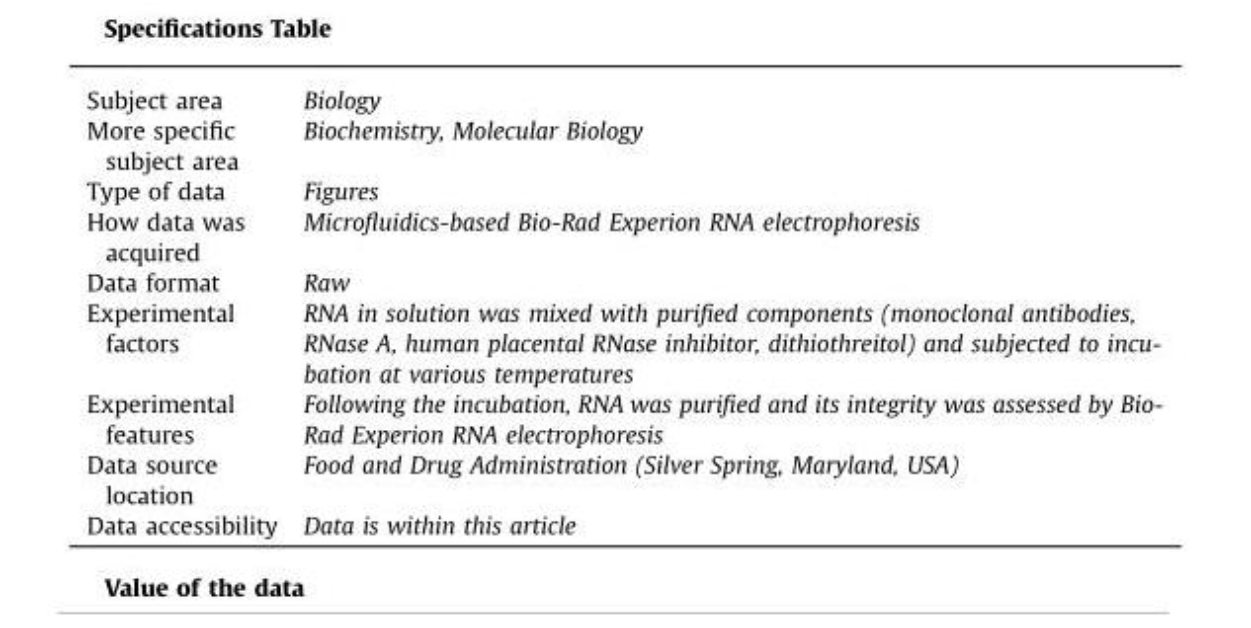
<table><tbody><tr><td>Subject area</td><td>Biology</td></tr><tr><td>More specific subject area</td><td>Biochemistry, Molecular Biology</td></tr><tr><td>Type of data</td><td>Figures</td></tr><tr><td>How data was acquired</td><td>Microfluidics-based Bio-Rad Experion RNA electrophoresis</td></tr><tr><td>Data format</td><td>Raw</td></tr><tr><td>Experimental factors</td><td>RNA in solution was mixed with purified components (monoclonal antibodies, RNase A, human placental RNase inhibitor, dithiothreitol) and subjected to incu- bation at various temperatures</td></tr><tr><td>Experimental features</td><td>Following the incubation, RNA was purified and its integrity was assessed by Bio- Rad Experion RNA electrophoresis</td></tr><tr><td>Data source location</td><td>Food and Drug Administration (Silver Spring, Maryland, USA)</td></tr><tr><td>Data accessibility</td><td>Data is within this article</td></tr></tbody></table>